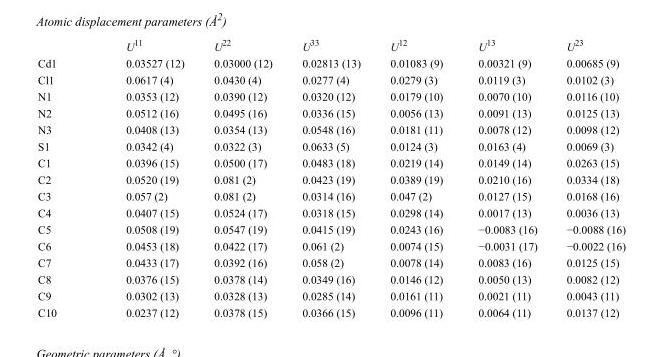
<table><thead><tr><td></td><td>U<sup>11</sup></td><td>U<sup>22</sup></td><td>U<sup>33</sup></td><td>U<sup>12</sup></td><td>U<sup>13</sup></td><td>U<sup>23</sup></td></tr></thead><tbody><tr><td>Cd1</td><td>0.03527 (12)</td><td>0.03000 (12)</td><td>0.02813 (13)</td><td>0.01083 (9)</td><td>0.00321 (9)</td><td>0.00685 (9)</td></tr><tr><td>Cl1</td><td>0.0617 (4)</td><td>0.0430 (4)</td><td>0.0277 (4)</td><td>0.0279 (3)</td><td>0.0119 (3)</td><td>0.0102 (3)</td></tr><tr><td>N1</td><td>0.0353 (12)</td><td>0.0390 (12)</td><td>0.0320 (12)</td><td>0.0179 (10)</td><td>0.0070 (10)</td><td>0.0116 (10)</td></tr><tr><td>N2</td><td>0.0512 (16)</td><td>0.0495 (16)</td><td>0.0336 (15)</td><td>0.0056 (13)</td><td>0.0091 (13)</td><td>0.0125 (13)</td></tr><tr><td>N3</td><td>0.0408 (13)</td><td>0.0354 (13)</td><td>0.0548 (16)</td><td>0.0181 (11)</td><td>0.0078 (12)</td><td>0.0098 (12)</td></tr><tr><td>S1</td><td>0.0342 (4)</td><td>0.0322 (3)</td><td>0.0633 (5)</td><td>0.0124 (3)</td><td>0.0163 (4)</td><td>0.0069 (3)</td></tr><tr><td>C1</td><td>0.0396 (15)</td><td>0.0500 (17)</td><td>0.0483 (18)</td><td>0.0219 (14)</td><td>0.0149 (14)</td><td>0.0263 (15)</td></tr><tr><td>C2</td><td>0.0520 (19)</td><td>0.081 (2)</td><td>0.0423 (19)</td><td>0.0389 (19)</td><td>0.0210 (16)</td><td>0.0334 (18)</td></tr><tr><td>C3</td><td>0.057 (2)</td><td>0.081 (2)</td><td>0.0314 (16)</td><td>0.047 (2)</td><td>0.0127 (15)</td><td>0.0168 (16)</td></tr><tr><td>C4</td><td>0.0407 (15)</td><td>0.0524 (17)</td><td>0.0318 (15)</td><td>0.0298 (14)</td><td>0.0017 (13)</td><td>0.0036 (13)</td></tr><tr><td>C5</td><td>0.0508 (19)</td><td>0.0547 (19)</td><td>0.0415 (19)</td><td>0.0243 (16)</td><td>−0.0083 (16)</td><td>−0.0088 (16)</td></tr><tr><td>C6</td><td>0.0453 (18)</td><td>0.0422 (17)</td><td>0.061 (2)</td><td>0.0074 (15)</td><td>−0.0031 (17)</td><td>−0.0022 (16)</td></tr><tr><td>C7</td><td>0.0433 (17)</td><td>0.0392 (16)</td><td>0.058 (2)</td><td>0.0078 (14)</td><td>0.0083 (16)</td><td>0.0125 (15)</td></tr><tr><td>C8</td><td>0.0376 (15)</td><td>0.0378 (14)</td><td>0.0349 (16)</td><td>0.0146 (12)</td><td>0.0050 (13)</td><td>0.0082 (12)</td></tr><tr><td>C9</td><td>0.0302 (13)</td><td>0.0328 (13)</td><td>0.0285 (14)</td><td>0.0161 (11)</td><td>0.0021 (11)</td><td>0.0043 (11)</td></tr><tr><td>C10</td><td>0.0237 (12)</td><td>0.0378 (15)</td><td>0.0366 (15)</td><td>0.0096 (11)</td><td>0.0064 (11)</td><td>0.0137 (12)</td></tr></tbody></table>